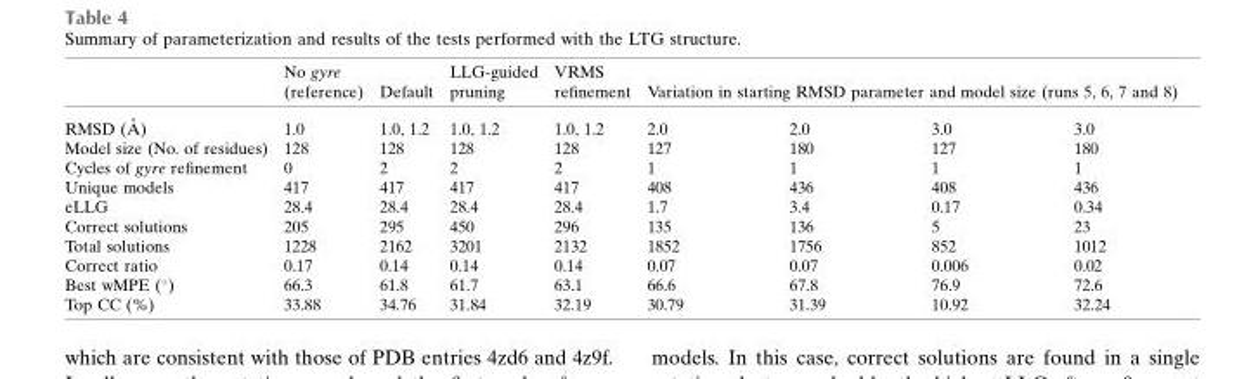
<table><thead><tr><td rowspan="2">RMSD (A˚ )</td><td rowspan="2">No gyre (reference) 1.0</td><td rowspan="2">Default 1.0, 1.2</td><td rowspan="2">LLG-guided pruning 1.0, 1.2</td><td rowspan="2">VRMS refinement 1.0, 1.2</td><td colspan="4">Variation in starting RMSD parameter and model size (runs 5, 6, 7 and 8)</td></tr><tr><td>2.0</td><td>2.0</td><td>3.0</td><td>3.0</td></tr></thead><tbody><tr><td>Model size (No. of residues)</td><td>128</td><td>128</td><td>128</td><td>128</td><td>127</td><td>180</td><td>127</td><td>180</td></tr><tr><td>Cycles of gyre refinement</td><td>0</td><td>2</td><td>2</td><td>2</td><td>1</td><td>1</td><td>1</td><td>1</td></tr><tr><td>Unique models</td><td>417</td><td>417</td><td>417</td><td>417</td><td>408</td><td>436</td><td>408</td><td>436</td></tr><tr><td>eLLG</td><td>28.4</td><td>28.4</td><td>28.4</td><td>28.4</td><td>1.7</td><td>3.4</td><td>0.17</td><td>0.34</td></tr><tr><td>Correct solutions</td><td>205</td><td>295</td><td>450</td><td>296</td><td>135</td><td>136</td><td>5</td><td>23</td></tr><tr><td>Total solutions</td><td>1228</td><td>2162</td><td>3201</td><td>2132</td><td>1852</td><td>1756</td><td>852</td><td>1012</td></tr><tr><td>Correct ratio</td><td>0.17</td><td>0.14</td><td>0.14</td><td>0.14</td><td>0.07</td><td>0.07</td><td>0.006</td><td>0.02</td></tr><tr><td>Best wMPE (°)</td><td>66.3</td><td>61.8</td><td>61.7</td><td>63.1</td><td>66.6</td><td>67.8</td><td>76.9</td><td>72.6</td></tr><tr><td>Top CC (%)</td><td>33.88</td><td>34.76</td><td>31.84</td><td>32.19</td><td>30.79</td><td>31.39</td><td>10.92</td><td>32.24</td></tr></tbody></table>